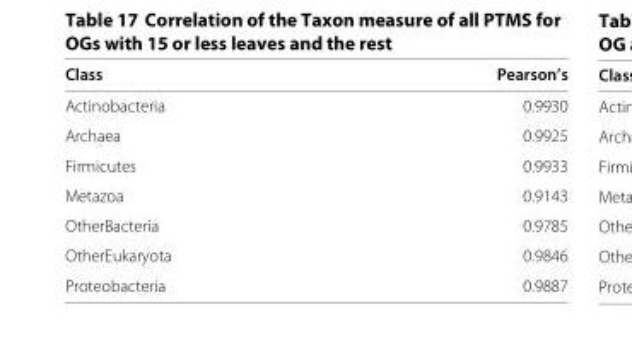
<table><thead><tr><td>Class</td><td>Pearson’s</td></tr></thead><tbody><tr><td>Actinobacteria</td><td>0.9930</td></tr><tr><td>Archaea</td><td>0.9925</td></tr><tr><td>Firmicutes</td><td>0.9933</td></tr><tr><td>Metazoa</td><td>0.9143</td></tr><tr><td>OtherBacteria</td><td>0.9785</td></tr><tr><td>OtherEukaryota</td><td>0.9846</td></tr><tr><td>Proteobacteria</td><td>0.9887</td></tr></tbody></table>